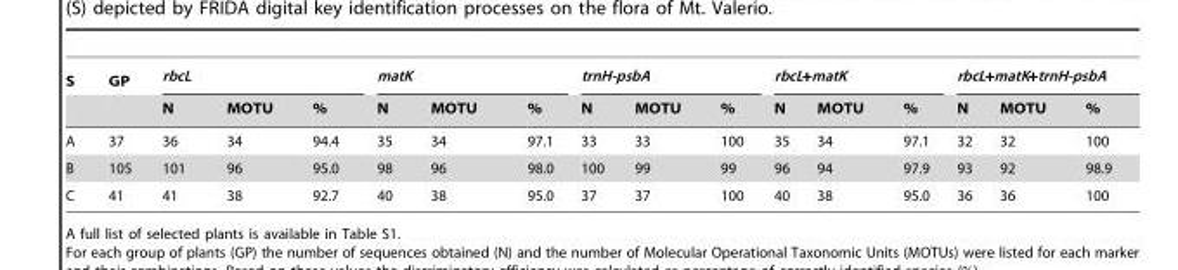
<table><thead><tr><td rowspan="2">S</td><td rowspan="2">GP</td><td colspan="3">rbcL</td><td colspan="3">matK</td><td colspan="3">trnH-psbA</td><td colspan="3">rbcL+matK</td><td colspan="3">rbcL+matK+trnH-psbA</td></tr><tr><td>N</td><td>MOTU</td><td>%</td><td>N</td><td>MOTU</td><td>%</td><td>N</td><td>MOTU</td><td>%</td><td>N</td><td>MOTU</td><td>%</td><td>N</td><td>MOTU</td><td>%</td></tr></thead><tbody><tr><td>A</td><td>37</td><td>36</td><td>34</td><td>94.4</td><td>35</td><td>34</td><td>97.1</td><td>33</td><td>33</td><td>100</td><td>35</td><td>34</td><td>97.1</td><td>32</td><td>32</td><td>100</td></tr><tr><td>B</td><td>105</td><td>101</td><td>96</td><td>95.0</td><td>98</td><td>96</td><td>98.0</td><td>100</td><td>99</td><td>99</td><td>96</td><td>94</td><td>97.9</td><td>93</td><td>92</td><td>98.9</td></tr><tr><td>C</td><td>41</td><td>41</td><td>38</td><td>92.7</td><td>40</td><td>38</td><td>95.0</td><td>37</td><td>37</td><td>100</td><td>40</td><td>38</td><td>95.0</td><td>36</td><td>36</td><td>100</td></tr></tbody></table>